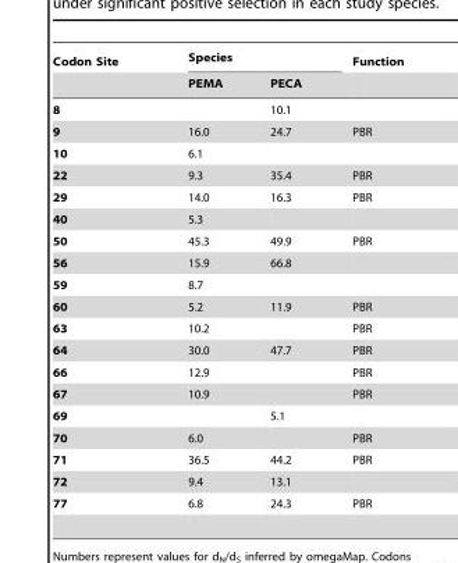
<table><thead><tr><td rowspan="2">Codon Site</td><td colspan="2">Species</td><td rowspan="2">Function</td></tr><tr><td>PEMA</td><td>PECA</td></tr></thead><tbody><tr><td>8</td><td></td><td>10.1</td><td></td></tr><tr><td>9</td><td>16.0</td><td>24.7</td><td>PBR</td></tr><tr><td>10</td><td>6.1</td><td></td><td></td></tr><tr><td>22</td><td>9.3</td><td>35.4</td><td>PBR</td></tr><tr><td>29</td><td>14.0</td><td>16.3</td><td>PBR</td></tr><tr><td>40</td><td>5.3</td><td></td><td></td></tr><tr><td>50</td><td>45.3</td><td>49.9</td><td>PBR</td></tr><tr><td>56</td><td>15.9</td><td>66.8</td><td></td></tr><tr><td>59</td><td>8.7</td><td></td><td></td></tr><tr><td>60</td><td>5.2</td><td>11.9</td><td>PBR</td></tr><tr><td>63</td><td>10.2</td><td></td><td>PBR</td></tr><tr><td>64</td><td>30.0</td><td>47.7</td><td>PBR</td></tr><tr><td>66</td><td>12.9</td><td></td><td>PBR</td></tr><tr><td>67</td><td>10.9</td><td></td><td>PBR</td></tr><tr><td>69</td><td></td><td>5.1</td><td></td></tr><tr><td>70</td><td>6.0</td><td></td><td>PBR</td></tr><tr><td>71</td><td>36.5</td><td>44.2</td><td>PBR</td></tr><tr><td>72</td><td>9.4</td><td>13.1</td><td></td></tr><tr><td>77</td><td>6.8</td><td>24.3</td><td>PBR</td></tr></tbody></table>